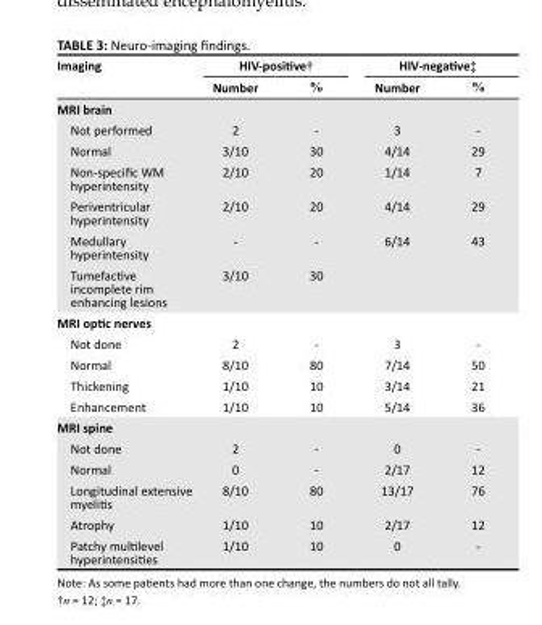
<table><thead><tr><td rowspan="2">Imaging</td><td colspan="2">HIV-positive†</td><td colspan="2">HIV-negative‡</td></tr><tr><td>Number</td><td>%</td><td>Number</td><td>%</td></tr></thead><tbody><tr><td colspan="5">MRI brain</td></tr><tr><td>Not performed</td><td>2</td><td>-</td><td>3</td><td>-</td></tr><tr><td>Normal</td><td>3/10</td><td>30</td><td>4/14</td><td>29</td></tr><tr><td>Non-specific WM hyperintensity</td><td>2/10</td><td>20</td><td>1/14</td><td>7</td></tr><tr><td>Periventricular hyperintensity</td><td>2/10</td><td>20</td><td>4/14</td><td>29</td></tr><tr><td>Medullary hyperintensity</td><td>-</td><td>-</td><td>6/14</td><td>43</td></tr><tr><td>Tumefactive incomplete rim enhancing lesions</td><td>3/10</td><td>30</td><td></td><td></td></tr><tr><td colspan="5">MRI optic nerves</td></tr><tr><td>Not done</td><td>2</td><td>-</td><td>3</td><td>-</td></tr><tr><td>Normal</td><td>8/10</td><td>80</td><td>7/14</td><td>50</td></tr><tr><td>Thickening</td><td>1/10</td><td>10</td><td>3/14</td><td>21</td></tr><tr><td>Enhancement</td><td>1/10</td><td>10</td><td>5/14</td><td>36</td></tr><tr><td colspan="5">MRI spine</td></tr><tr><td>Not done</td><td>2</td><td>-</td><td>0</td><td>-</td></tr><tr><td>Normal</td><td>0</td><td>-</td><td>2/17</td><td>12</td></tr><tr><td>Longitudinal extensive myelitis</td><td>8/10</td><td>80</td><td>13/17</td><td>76</td></tr><tr><td>Atrophy</td><td>1/10</td><td>10</td><td>2/17</td><td>12</td></tr><tr><td>Patchy multilevel hyperintensities</td><td>1/10</td><td>10</td><td>0</td><td>-</td></tr></tbody></table>